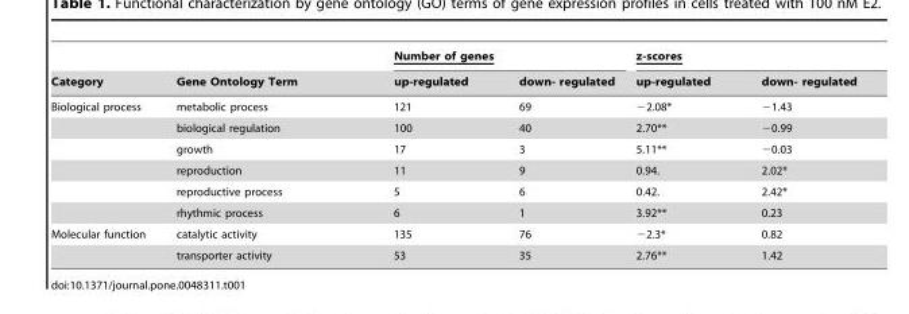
<table><thead><tr><td rowspan="2">Category</td><td rowspan="2">Gene Ontology Term</td><td colspan="2">Number of genes</td><td colspan="2">z-scores</td></tr><tr><td>up-regulated</td><td>down- regulated</td><td>up-regulated</td><td>down- regulated</td></tr></thead><tbody><tr><td rowspan="6">Biological process</td><td>metabolic process</td><td>121</td><td>69</td><td>−2.08*</td><td>−1.43</td></tr><tr><td>biological regulation</td><td>100</td><td>40</td><td>2.70**</td><td>−0.99</td></tr><tr><td>growth</td><td>17</td><td>3</td><td>5.11**</td><td>−0.03</td></tr><tr><td>reproduction</td><td>11</td><td>9</td><td>0.94.</td><td>2.02*</td></tr><tr><td>reproductive process</td><td>5</td><td>6</td><td>0.42.</td><td>2.42*</td></tr><tr><td>rhythmic process</td><td>6</td><td>1</td><td>3.92**</td><td>0.23</td></tr><tr><td rowspan="2">Molecular function</td><td>catalytic activity</td><td>135</td><td>76</td><td>−2.3*</td><td>0.82</td></tr><tr><td>transporter activity</td><td>53</td><td>35</td><td>2.76**</td><td>1.42</td></tr></tbody></table>